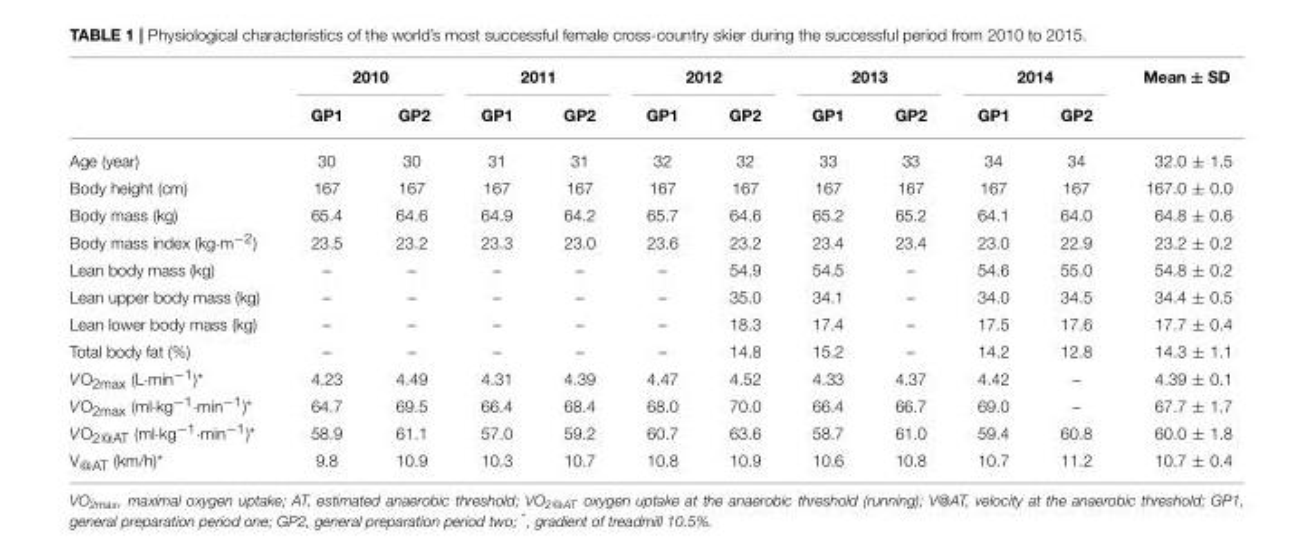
<table><thead><tr><td rowspan="2"></td><td colspan="2">2010</td><td colspan="2">2011</td><td colspan="2">2012</td><td colspan="2">2013</td><td colspan="2">2014</td><td rowspan="2">Mean ± SD</td></tr><tr><td>GP1</td><td>GP2</td><td>GP1</td><td>GP2</td><td>GP1</td><td>GP2</td><td>GP1</td><td>GP2</td><td>GP1</td><td>GP2</td></tr></thead><tbody><tr><td>Age (year)</td><td>30</td><td>30</td><td>31</td><td>31</td><td>32</td><td>32</td><td>33</td><td>33</td><td>34</td><td>34</td><td>32.0 ± 1.5</td></tr><tr><td>Body height (cm)</td><td>167</td><td>167</td><td>167</td><td>167</td><td>167</td><td>167</td><td>167</td><td>167</td><td>167</td><td>167</td><td>167.0 ± 0.0</td></tr><tr><td>Body mass (kg)</td><td>65.4</td><td>64.6</td><td>64.9</td><td>64.2</td><td>65.7</td><td>64.6</td><td>65.2</td><td>65.2</td><td>64.1</td><td>64.0</td><td>64.8 ± 0.6</td></tr><tr><td>Body mass index (kg·m<sup>−2</sup>)</td><td>23.5</td><td>23.2</td><td>23.3</td><td>23.0</td><td>23.6</td><td>23.2</td><td>23.4</td><td>23.4</td><td>23.0</td><td>22.9</td><td>23.2 ± 0.2</td></tr><tr><td>Lean body mass (kg)</td><td>–</td><td>–</td><td>–</td><td>–</td><td>–</td><td>54.9</td><td>54.5</td><td>–</td><td>54.6</td><td>55.0</td><td>54.8 ± 0.2</td></tr><tr><td>Lean upper body mass (kg)</td><td>–</td><td>–</td><td>–</td><td>–</td><td>–</td><td>35.0</td><td>34.1</td><td>–</td><td>34.0</td><td>34.5</td><td>34.4 ± 0.5</td></tr><tr><td>Lean lower body mass (kg)</td><td>–</td><td>–</td><td>–</td><td>–</td><td>–</td><td>18.3</td><td>17.4</td><td>–</td><td>17.5</td><td>17.6</td><td>17.7 ± 0.4</td></tr><tr><td>Total body fat (%)</td><td>–</td><td>–</td><td>–</td><td>–</td><td>–</td><td>14.8</td><td>15.2</td><td>–</td><td>14.2</td><td>12.8</td><td>14.3 ± 1.1</td></tr><tr><td>VO<sub>2max</sub> (L·min<sup>−1</sup>)*</td><td>4.23</td><td>4.49</td><td>4.31</td><td>4.39</td><td>4.47</td><td>4.52</td><td>4.33</td><td>4.37</td><td>4.42</td><td>–</td><td>4.39 ± 0.1</td></tr><tr><td>VO<sub>2max</sub> (ml·kg<sup>−1</sup>·min<sup>−1</sup>)*</td><td>64.7</td><td>69.5</td><td>66.4</td><td>68.4</td><td>68.0</td><td>70.0</td><td>66.4</td><td>66.7</td><td>69.0</td><td>–</td><td>67.7 ± 1.7</td></tr><tr><td>VO<sub>2@AT</sub> (ml·kg<sup>−1</sup>·min<sup>−1</sup>)*</td><td>58.9</td><td>61.1</td><td>57.0</td><td>59.2</td><td>60.7</td><td>63.6</td><td>58.7</td><td>61.0</td><td>59.4</td><td>60.8</td><td>60.0 ± 1.8</td></tr><tr><td>V<sub>@AT</sub> (km/h)*</td><td>9.8</td><td>10.9</td><td>10.3</td><td>10.7</td><td>10.8</td><td>10.9</td><td>10.6</td><td>10.8</td><td>10.7</td><td>11.2</td><td>10.7 ± 0.4</td></tr></tbody></table>